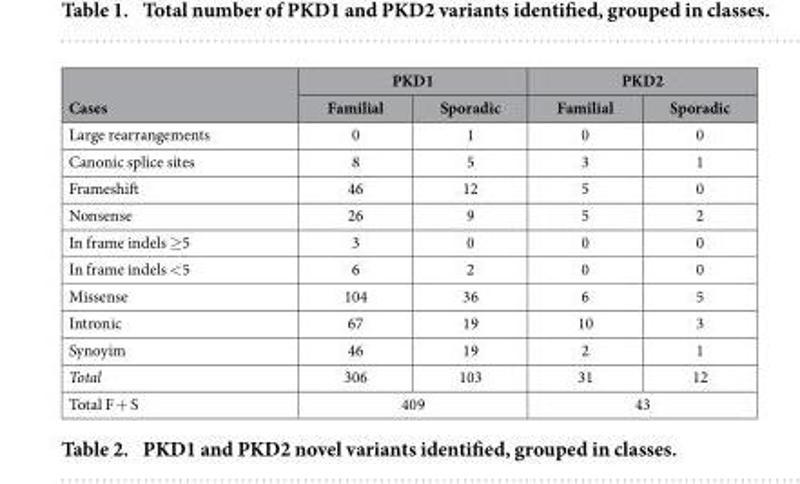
<table><thead><tr><td rowspan="2">Cases</td><td colspan="2">PKD1</td><td colspan="2">PKD2</td></tr><tr><td>Familial</td><td>Sporadic</td><td>Familial</td><td>Sporadic</td></tr></thead><tbody><tr><td>Large rearrangements</td><td>0</td><td>1</td><td>0</td><td>0</td></tr><tr><td>Canonic splice sites</td><td>8</td><td>5</td><td>3</td><td>1</td></tr><tr><td>Frameshift</td><td>46</td><td>12</td><td>5</td><td>0</td></tr><tr><td>Nonsense</td><td>26</td><td>9</td><td>5</td><td>2</td></tr><tr><td>In frame indels ≥ 5</td><td>3</td><td>0</td><td>0</td><td>0</td></tr><tr><td>In frame indels &lt; 5</td><td>6</td><td>2</td><td>0</td><td>0</td></tr><tr><td>Missense</td><td>104</td><td>36</td><td>6</td><td>5</td></tr><tr><td>Intronic</td><td>67</td><td>19</td><td>10</td><td>3</td></tr><tr><td>Synoyim</td><td>46</td><td>19</td><td>2</td><td>1</td></tr><tr><td>Total</td><td>306</td><td>103</td><td>31</td><td>12</td></tr><tr><td>Total F + S</td><td colspan="2">409</td><td colspan="2">43</td></tr></tbody></table>